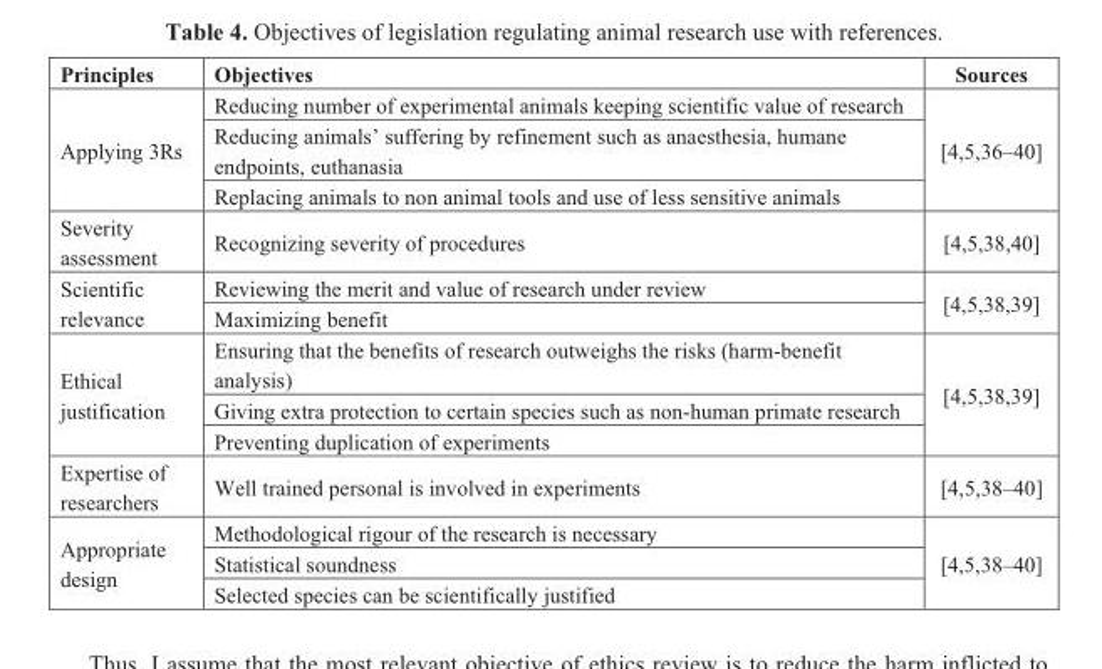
<table><thead><tr><td>Principles</td><td>Objectives</td><td>Sources</td></tr></thead><tbody><tr><td rowspan="3">Applying 3Rs</td><td>Reducing number of experimental animals keeping scientific value of research</td><td rowspan="3">[4,5,36–40]</td></tr><tr><td>Reducing animals’ suffering by refinement such as anaesthesia, humane endpoints, euthanasia</td></tr><tr><td>Replacing animals to non animal tools and use of less sensitive animals</td></tr><tr><td>Severity assessment</td><td>Recognizing severity of procedures</td><td>[4,5,38,40]</td></tr><tr><td rowspan="2">Scientific relevance</td><td>Reviewing the merit and value of research under review</td><td rowspan="2">[4,5,38,39]</td></tr><tr><td>Maximizing benefit</td></tr><tr><td rowspan="3">Ethical justification</td><td>Ensuring that the benefits of research outweighs the risks (harm-benefit analysis)</td><td rowspan="3">[4,5,38,39]</td></tr><tr><td>Giving extra protection to certain species such as non-human primate research</td></tr><tr><td>Preventing duplication of experiments</td></tr><tr><td>Expertise of researchers</td><td>Well trained personal is involved in experiments</td><td>[4,5,38–40]</td></tr><tr><td rowspan="3">Appropriate design</td><td>Methodological rigour of the research is necessary</td><td rowspan="3">[4,5,38–40]</td></tr><tr><td>Statistical soundness</td></tr><tr><td>Selected species can be scientifically justified</td></tr></tbody></table>